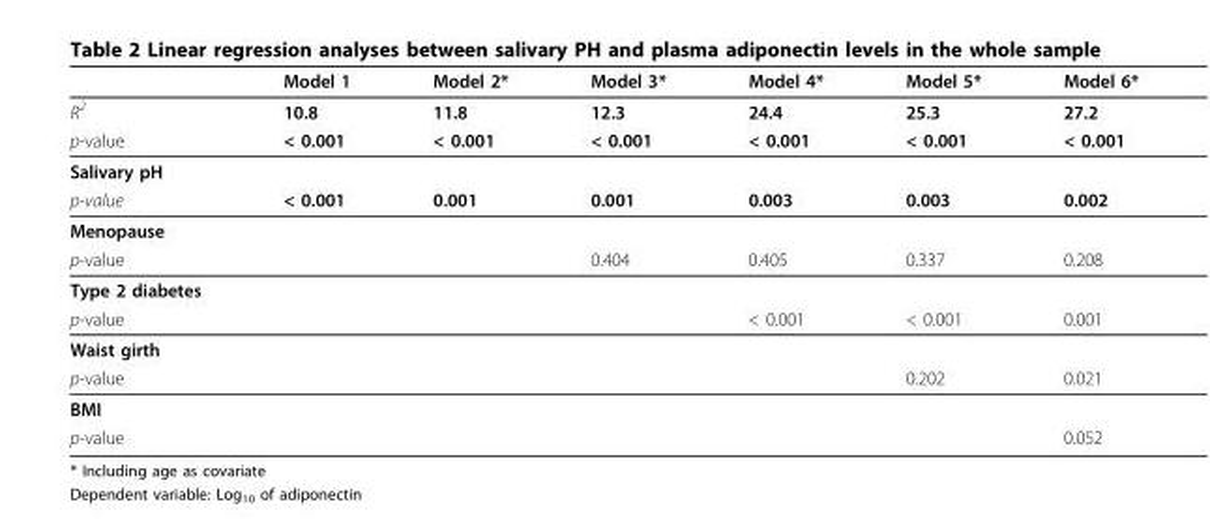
<table><thead><tr><td></td><td>Model 1</td><td>Model 2*</td><td>Model 3*</td><td>Model 4*</td><td>Model 5*</td><td>Model 6*</td></tr></thead><tbody><tr><td>R<sup>2</sup></td><td>10.8</td><td>11.8</td><td>12.3</td><td>24.4</td><td>25.3</td><td>27.2</td></tr><tr><td>p-value</td><td>&lt; 0.001</td><td>&lt; 0.001</td><td>&lt; 0.001</td><td>&lt; 0.001</td><td>&lt; 0.001</td><td>&lt; 0.001</td></tr><tr><td colspan="7">Salivary pH</td></tr><tr><td>p-value</td><td>&lt; 0.001</td><td>0.001</td><td>0.001</td><td>0.003</td><td>0.003</td><td>0.002</td></tr><tr><td colspan="7">Menopause</td></tr><tr><td>p-value</td><td></td><td></td><td>0.404</td><td>0.405</td><td>0.337</td><td>0.208</td></tr><tr><td colspan="7">Type 2 diabetes</td></tr><tr><td>p-value</td><td></td><td></td><td></td><td>&lt; 0.001</td><td>&lt; 0.001</td><td>0.001</td></tr><tr><td colspan="7">Waist girth</td></tr><tr><td>p-value</td><td></td><td></td><td></td><td></td><td>0.202</td><td>0.021</td></tr><tr><td colspan="7">BMI</td></tr><tr><td>p-value</td><td></td><td></td><td></td><td></td><td></td><td>0.052</td></tr></tbody></table>